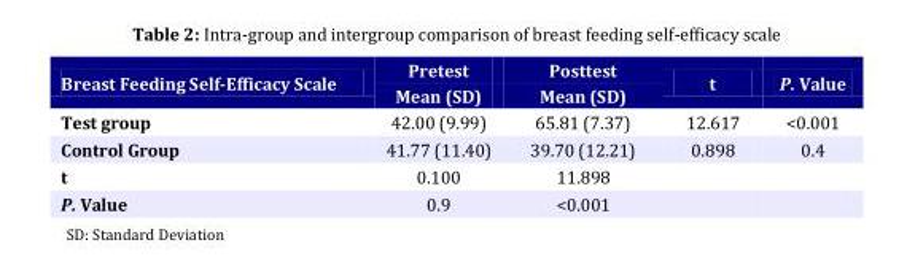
<table><thead><tr><td rowspan="2">Breast Feeding Self-Efficacy Scale</td><td rowspan="2">Pretest Mean (SD)</td><td rowspan="2">Posttest Mean (SD)</td><td rowspan="2">t</td><td rowspan="2">P. Value</td></tr><tr></tr></thead><tbody><tr><td>Test group</td><td>42.00 (9.99)</td><td>65.81 (7.37)</td><td>12.617</td><td>&lt;0.001</td></tr><tr><td>Control Group</td><td>41.77 (11.40)</td><td>39.70 (12.21)</td><td>0.898</td><td>0.4</td></tr><tr><td>t</td><td>0.100</td><td>11.898</td><td></td><td></td></tr><tr><td>P. Value</td><td>0.9</td><td>&lt;0.001</td><td></td><td></td></tr></tbody></table>